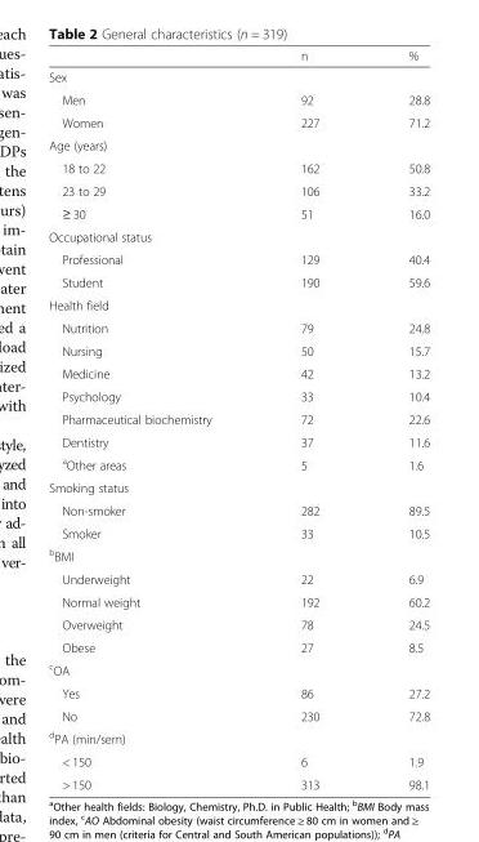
<table><thead><tr><td></td><td>n</td><td>%</td></tr></thead><tbody><tr><td colspan="3">Sex</td></tr><tr><td>Men</td><td>92</td><td>28.8</td></tr><tr><td>Women</td><td>227</td><td>71.2</td></tr><tr><td colspan="3">Age (years)</td></tr><tr><td>18 to 22</td><td>162</td><td>50.8</td></tr><tr><td>23 to 29</td><td>106</td><td>33.2</td></tr><tr><td>≥ 30</td><td>51</td><td>16.0</td></tr><tr><td colspan="3">Occupational status</td></tr><tr><td>Professional</td><td>129</td><td>40.4</td></tr><tr><td>Student</td><td>190</td><td>59.6</td></tr><tr><td colspan="3">Health field</td></tr><tr><td>Nutrition</td><td>79</td><td>24.8</td></tr><tr><td>Nursing</td><td>50</td><td>15.7</td></tr><tr><td>Medicine</td><td>42</td><td>13.2</td></tr><tr><td>Psychology</td><td>33</td><td>10.4</td></tr><tr><td>Pharmaceutical biochemistry</td><td>72</td><td>22.6</td></tr><tr><td>Dentistry</td><td>37</td><td>11.6</td></tr><tr><td><sup>a</sup>Other areas</td><td>5</td><td>1.6</td></tr><tr><td colspan="3">Smoking status</td></tr><tr><td>Non-smoker</td><td>282</td><td>89.5</td></tr><tr><td>Smoker</td><td>33</td><td>10.5</td></tr><tr><td colspan="3"><sup>b</sup>BMI</td></tr><tr><td>Underweight</td><td>22</td><td>6.9</td></tr><tr><td>Normal weight</td><td>192</td><td>60.2</td></tr><tr><td>Overweight</td><td>78</td><td>24.5</td></tr><tr><td>Obese</td><td>27</td><td>8.5</td></tr><tr><td colspan="3"><sup>c</sup>OA</td></tr><tr><td>Yes</td><td>86</td><td>27.2</td></tr><tr><td>No</td><td>230</td><td>72.8</td></tr><tr><td colspan="3"><sup>d</sup>PA (min/sem)</td></tr><tr><td>&lt; 150</td><td>6</td><td>1.9</td></tr><tr><td>&gt; 150</td><td>313</td><td>98.1</td></tr></tbody></table>